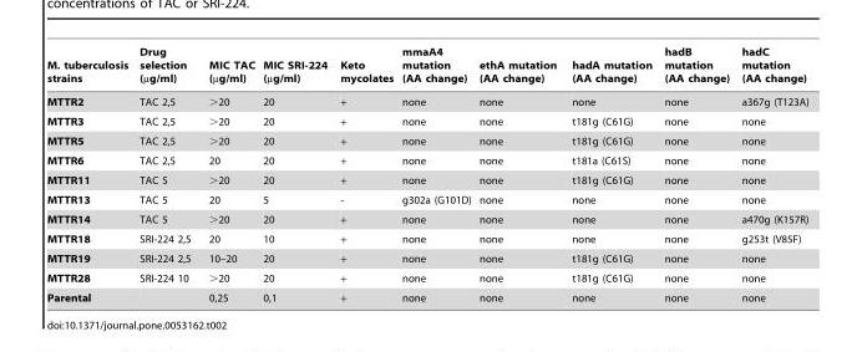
<table><thead><tr><td>M. tuberculosis strains</td><td>Drug selection (µg/ml)</td><td>MIC TAC (µg/ml)</td><td>MIC SRI-224 (µg/ml)</td><td>Keto mycolates</td><td>mmaA4 mutation (AA change)</td><td>ethA mutation (AA change)</td><td>hadA mutation (AA change)</td><td>hadB mutation (AA change)</td><td>hadC mutation (AA change)</td></tr></thead><tbody><tr><td>MTTR2</td><td>TAC 2,5</td><td>&gt;20</td><td>20</td><td>+</td><td>none</td><td>none</td><td>none</td><td>none</td><td>a367g (T123A)</td></tr><tr><td>MTTR3</td><td>TAC 2,5</td><td>&gt;20</td><td>20</td><td>+</td><td>none</td><td>none</td><td>t181g (C61G)</td><td>none</td><td>none</td></tr><tr><td>MTTR5</td><td>TAC 2,5</td><td>&gt;20</td><td>20</td><td>+</td><td>none</td><td>none</td><td>t181g (C61G)</td><td>none</td><td>none</td></tr><tr><td>MTTR6</td><td>TAC 2,5</td><td>20</td><td>20</td><td>+</td><td>none</td><td>none</td><td>t181a (C61S)</td><td>none</td><td>none</td></tr><tr><td>MTTR11</td><td>TAC 5</td><td>&gt;20</td><td>20</td><td>+</td><td>none</td><td>none</td><td>t181g (C61G)</td><td>none</td><td>none</td></tr><tr><td>MTTR13</td><td>TAC 5</td><td>20</td><td>5</td><td>-</td><td>g302a (G101D)</td><td>none</td><td>none</td><td>none</td><td>none</td></tr><tr><td>MTTR14</td><td>TAC 5</td><td>&gt;20</td><td>20</td><td>+</td><td>none</td><td>none</td><td>none</td><td>none</td><td>a470g (K157R)</td></tr><tr><td>MTTR18</td><td>SRI-224 2,5</td><td>20</td><td>10</td><td>+</td><td>none</td><td>none</td><td>none</td><td>none</td><td>g253t (V85F)</td></tr><tr><td>MTTR19</td><td>SRI-224 2,5</td><td>10–20</td><td>20</td><td>+</td><td>none</td><td>none</td><td>t181g (C61G)</td><td>none</td><td>none</td></tr><tr><td>MTTR28</td><td>SRI-224 10</td><td>&gt;20</td><td>20</td><td>+</td><td>none</td><td>none</td><td>t181g (C61G)</td><td>none</td><td>none</td></tr><tr><td>Parental</td><td></td><td>0,25</td><td>0,1</td><td>+</td><td>none</td><td>none</td><td>none</td><td>none</td><td>none</td></tr></tbody></table>